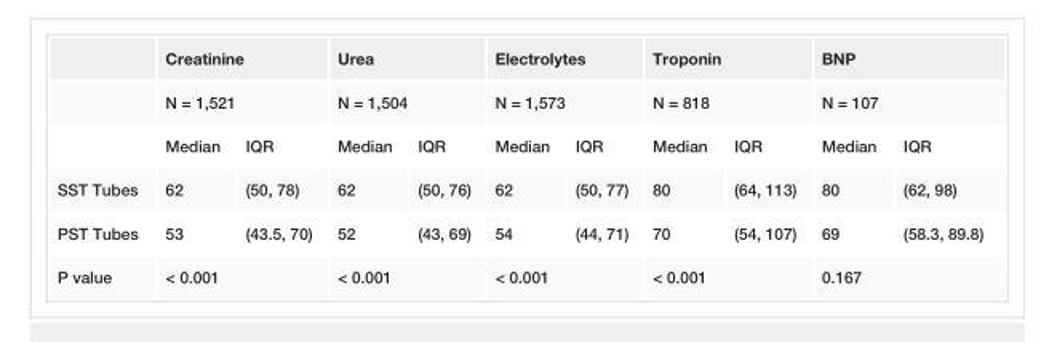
<table><thead><tr><td rowspan="3"></td><td rowspan="2" colspan="2">Creatinine N = 1,521</td><td rowspan="2" colspan="2">Urea N = 1,504</td><td rowspan="2" colspan="2">Electrolytes N = 1,573</td><td rowspan="2" colspan="2">Troponin N = 818</td><td rowspan="2" colspan="2">BNP N = 107</td></tr><tr></tr><tr><td>Median</td><td>IQR</td><td>Median</td><td>IQR</td><td>Median</td><td>IQR</td><td>Median</td><td>IQR</td><td>Median</td><td>IQR</td></tr></thead><tbody><tr><td>SST Tubes</td><td>62</td><td>(50, 78)</td><td>62</td><td>(50, 76)</td><td>62</td><td>(50, 77)</td><td>80</td><td>(64, 113)</td><td>80</td><td>(62, 98)</td></tr><tr><td>PST Tubes</td><td>53</td><td>(43.5, 70)</td><td>52</td><td>(43, 69)</td><td>54</td><td>(44, 71)</td><td>70</td><td>(54, 107)</td><td>69</td><td>(58.3, 89.8)</td></tr><tr><td>P value</td><td colspan="2">&lt; 0.001</td><td colspan="2">&lt; 0.001</td><td colspan="2">&lt; 0.001</td><td colspan="2">&lt; 0.001</td><td colspan="2">0.167</td></tr></tbody></table>